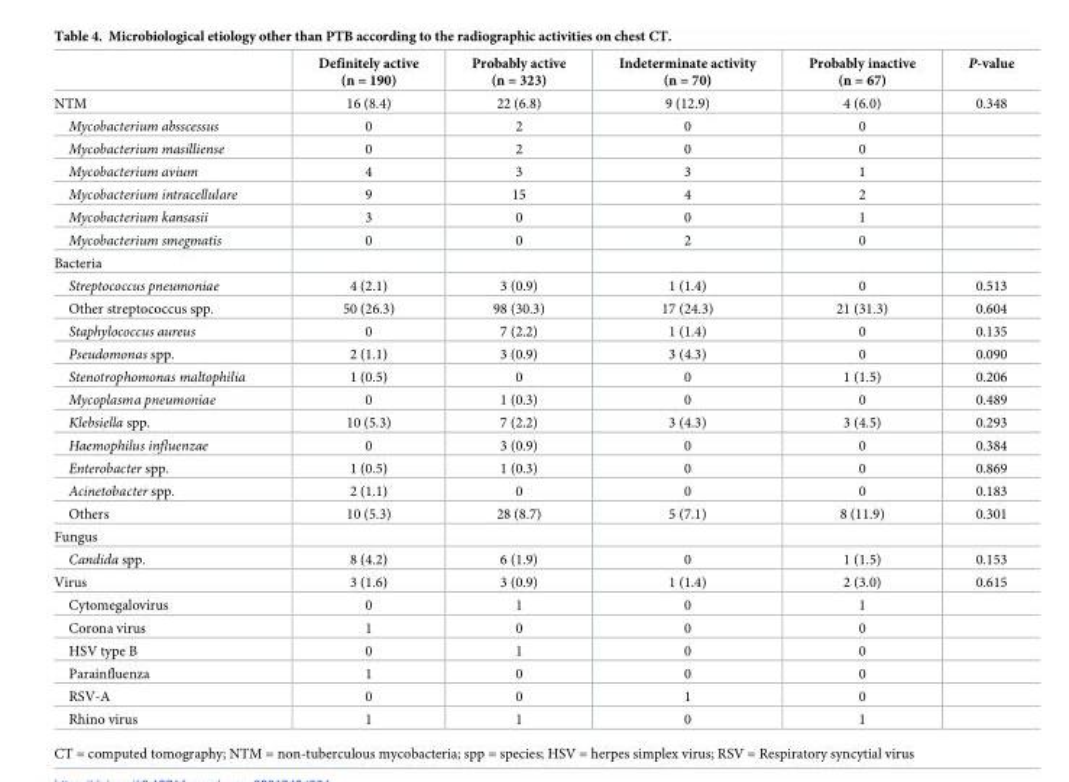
<table><thead><tr><td></td><td>Definitely active (n = 190)</td><td>Probably active (n = 323)</td><td>Indeterminate activity (n = 70)</td><td>Probably inactive (n = 67)</td><td>P-value</td></tr></thead><tbody><tr><td>NTM</td><td>16 (8.4)</td><td>22 (6.8)</td><td>9 (12.9)</td><td>4 (6.0)</td><td>0.348</td></tr><tr><td>Mycobacterium absscessus</td><td>0</td><td>2</td><td>0</td><td>0</td><td></td></tr><tr><td>Mycobacterium masilliense</td><td>0</td><td>2</td><td>0</td><td>0</td><td></td></tr><tr><td>Mycobacterium avium</td><td>4</td><td>3</td><td>3</td><td>1</td><td></td></tr><tr><td>Mycobacterium intracellulare</td><td>9</td><td>15</td><td>4</td><td>2</td><td></td></tr><tr><td>Mycobacterium kansasii</td><td>3</td><td>0</td><td>0</td><td>1</td><td></td></tr><tr><td>Mycobacterium smegmatis</td><td>0</td><td>0</td><td>2</td><td>0</td><td></td></tr><tr><td colspan="6">Bacteria</td></tr><tr><td>Streptococcus pneumoniae</td><td>4 (2.1)</td><td>3 (0.9)</td><td>1 (1.4)</td><td>0</td><td>0.513</td></tr><tr><td>Other streptococcus spp.</td><td>50 (26.3)</td><td>98 (30.3)</td><td>17 (24.3)</td><td>21 (31.3)</td><td>0.604</td></tr><tr><td>Staphylococcus aureus</td><td>0</td><td>7 (2.2)</td><td>1 (1.4)</td><td>0</td><td>0.135</td></tr><tr><td>Pseudomonas spp.</td><td>2 (1.1)</td><td>3 (0.9)</td><td>3 (4.3)</td><td>0</td><td>0.090</td></tr><tr><td>Stenotrophomonas maltophilia</td><td>1 (0.5)</td><td>0</td><td>0</td><td>1 (1.5)</td><td>0.206</td></tr><tr><td>Mycoplasma pneumoniae</td><td>0</td><td>1 (0.3)</td><td>0</td><td>0</td><td>0.489</td></tr><tr><td>Klebsiella spp.</td><td>10 (5.3)</td><td>7 (2.2)</td><td>3 (4.3)</td><td>3 (4.5)</td><td>0.293</td></tr><tr><td>Haemophilus influenzae</td><td>0</td><td>3 (0.9)</td><td>0</td><td>0</td><td>0.384</td></tr><tr><td>Enterobacter spp.</td><td>1 (0.5)</td><td>1 (0.3)</td><td>0</td><td>0</td><td>0.869</td></tr><tr><td>Acinetobacter spp.</td><td>2 (1.1)</td><td>0</td><td>0</td><td>0</td><td>0.183</td></tr><tr><td>Others</td><td>10 (5.3)</td><td>28 (8.7)</td><td>5 (7.1)</td><td>8 (11.9)</td><td>0.301</td></tr><tr><td colspan="6">Fungus</td></tr><tr><td>Candida spp.</td><td>8 (4.2)</td><td>6 (1.9)</td><td>0</td><td>1 (1.5)</td><td>0.153</td></tr><tr><td>Virus</td><td>3 (1.6)</td><td>3 (0.9)</td><td>1 (1.4)</td><td>2 (3.0)</td><td>0.615</td></tr><tr><td>Cytomegalovirus</td><td>0</td><td>1</td><td>0</td><td>1</td><td></td></tr><tr><td>Corona virus</td><td>1</td><td>0</td><td>0</td><td>0</td><td></td></tr><tr><td>HSV type B</td><td>0</td><td>1</td><td>0</td><td>0</td><td></td></tr><tr><td>Parainfluenza</td><td>1</td><td>0</td><td>0</td><td>0</td><td></td></tr><tr><td>RSV-A</td><td>0</td><td>0</td><td>1</td><td>0</td><td></td></tr><tr><td>Rhino virus</td><td>1</td><td>1</td><td>0</td><td>1</td><td></td></tr></tbody></table>